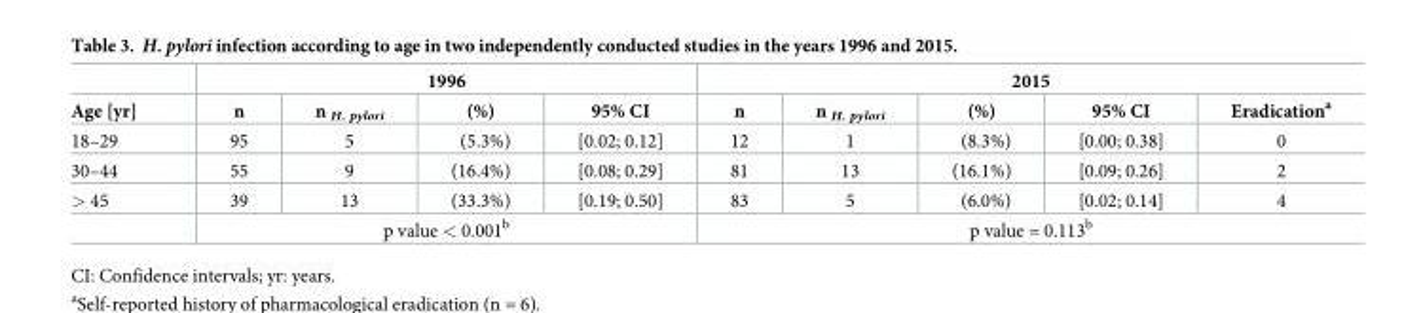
<table><thead><tr><td rowspan="2">Age [yr]</td><td colspan="4">1996</td><td colspan="5">2015</td></tr><tr><td>n</td><td>n <sub>H. pylori</sub></td><td>(%)</td><td>95% CI</td><td>n</td><td>n <sub>H. pylori</sub></td><td>(%)</td><td>95% CI</td><td>Eradication<sup>a</sup></td></tr></thead><tbody><tr><td>18–29</td><td>95</td><td>5</td><td>(5.3%)</td><td>[0.02; 0.12]</td><td>12</td><td>1</td><td>(8.3%)</td><td>[0.00; 0.38]</td><td>0</td></tr><tr><td>30–44</td><td>55</td><td>9</td><td>(16.4%)</td><td>[0.08; 0.29]</td><td>81</td><td>13</td><td>(16.1%)</td><td>[0.09; 0.26]</td><td>2</td></tr><tr><td rowspan="2">&gt; 45</td><td>39</td><td>13</td><td>(33.3%)</td><td>[0.19; 0.50]</td><td>83</td><td>5</td><td>(6.0%)</td><td>[0.02; 0.14]</td><td>4</td></tr><tr><td colspan="4">p value &lt; 0.001<sup>b</sup></td><td colspan="5">p value = 0.113<sup>b</sup></td></tr></tbody></table>